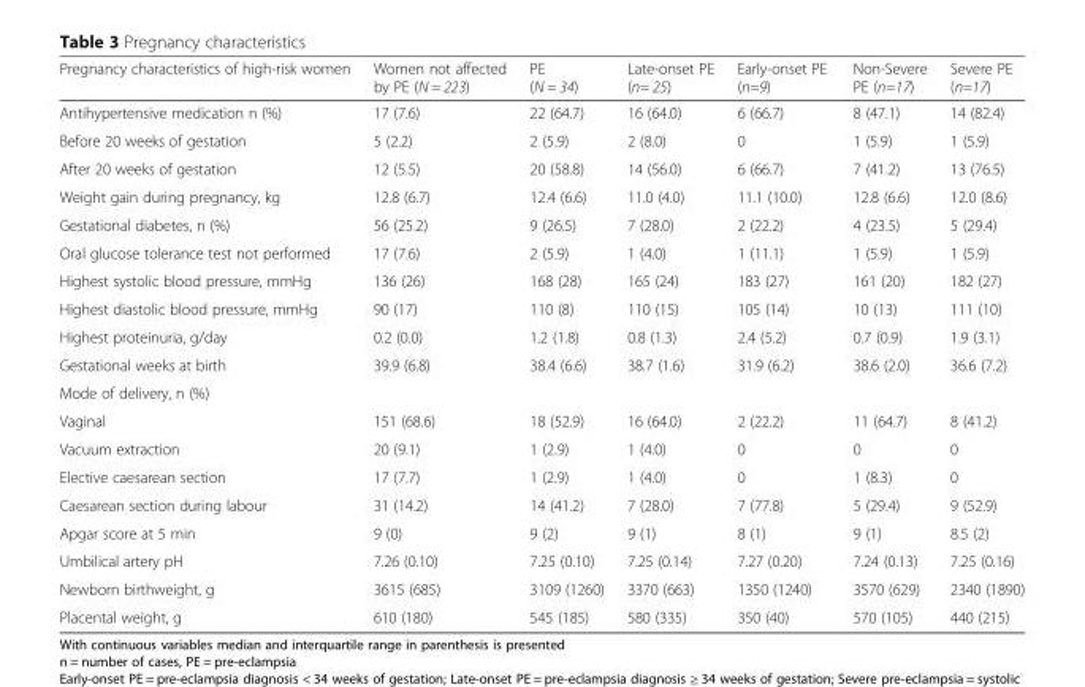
<table><thead><tr><td>Pregnancy characteristics of high-risk women</td><td>Women not affected by PE (N = 223)</td><td>PE (N = 34)</td><td>Late-onset PE (n= 25)</td><td>Early-onset PE (n=9)</td><td>Non-Severe PE (n=17)</td><td>Severe PE (n=17)</td></tr></thead><tbody><tr><td>Antihypertensive medication n (%)</td><td>17 (7.6)</td><td>22 (64.7)</td><td>16 (64.0)</td><td>6 (66.7)</td><td>8 (47.1)</td><td>14 (82.4)</td></tr><tr><td>Before 20 weeks of gestation</td><td>5 (2.2)</td><td>2 (5.9)</td><td>2 (8.0)</td><td>0</td><td>1 (5.9)</td><td>1 (5.9)</td></tr><tr><td>After 20 weeks of gestation</td><td>12 (5.5)</td><td>20 (58.8)</td><td>14 (56.0)</td><td>6 (66.7)</td><td>7 (41.2)</td><td>13 (76.5)</td></tr><tr><td>Weight gain during pregnancy, kg</td><td>12.8 (6.7)</td><td>12.4 (6.6)</td><td>11.0 (4.0)</td><td>11.1 (10.0)</td><td>12.8 (6.6)</td><td>12.0 (8.6)</td></tr><tr><td>Gestational diabetes, n (%)</td><td>56 (25.2)</td><td>9 (26.5)</td><td>7 (28.0)</td><td>2 (22.2)</td><td>4 (23.5)</td><td>5 (29.4)</td></tr><tr><td>Oral glucose tolerance test not performed</td><td>17 (7.6)</td><td>2 (5.9)</td><td>1 (4.0)</td><td>1 (11.1)</td><td>1 (5.9)</td><td>1 (5.9)</td></tr><tr><td>Highest systolic blood pressure, mmHg</td><td>136 (26)</td><td>168 (28)</td><td>165 (24)</td><td>183 (27)</td><td>161 (20)</td><td>182 (27)</td></tr><tr><td>Highest diastolic blood pressure, mmHg</td><td>90 (17)</td><td>110 (8)</td><td>110 (15)</td><td>105 (14)</td><td>10 (13)</td><td>111 (10)</td></tr><tr><td>Highest proteinuria, g/day</td><td>0.2 (0.0)</td><td>1.2 (1.8)</td><td>0.8 (1.3)</td><td>2.4 (5.2)</td><td>0.7 (0.9)</td><td>1.9 (3.1)</td></tr><tr><td>Gestational weeks at birth</td><td>39.9 (6.8)</td><td>38.4 (6.6)</td><td>38.7 (1.6)</td><td>31.9 (6.2)</td><td>38.6 (2.0)</td><td>36.6 (7.2)</td></tr><tr><td colspan="7">Mode of delivery, n (%)</td></tr><tr><td>Vaginal</td><td>151 (68.6)</td><td>18 (52.9)</td><td>16 (64.0)</td><td>2 (22.2)</td><td>11 (64.7)</td><td>8 (41.2)</td></tr><tr><td>Vacuum extraction</td><td>20 (9.1)</td><td>1 (2.9)</td><td>1 (4.0)</td><td>0</td><td>0</td><td>0</td></tr><tr><td>Elective caesarean section</td><td>17 (7.7)</td><td>1 (2.9)</td><td>1 (4.0)</td><td>0</td><td>1 (8.3)</td><td>0</td></tr><tr><td>Caesarean section during labour</td><td>31 (14.2)</td><td>14 (41.2)</td><td>7 (28.0)</td><td>7 (77.8)</td><td>5 (29.4)</td><td>9 (52.9)</td></tr><tr><td>Apgar score at 5 min</td><td>9 (0)</td><td>9 (2)</td><td>9 (1)</td><td>8 (1)</td><td>9 (1)</td><td>8.5 (2)</td></tr><tr><td>Umbilical artery pH</td><td>7.26 (0.10)</td><td>7.25 (0.10)</td><td>7.25 (0.14)</td><td>7.27 (0.20)</td><td>7.24 (0.13)</td><td>7.25 (0.16)</td></tr><tr><td>Newborn birthweight, g</td><td>3615 (685)</td><td>3109 (1260)</td><td>3370 (663)</td><td>1350 (1240)</td><td>3570 (629)</td><td>2340 (1890)</td></tr><tr><td>Placental weight, g</td><td>610 (180)</td><td>545 (185)</td><td>580 (335)</td><td>350 (40)</td><td>570 (105)</td><td>440 (215)</td></tr></tbody></table>